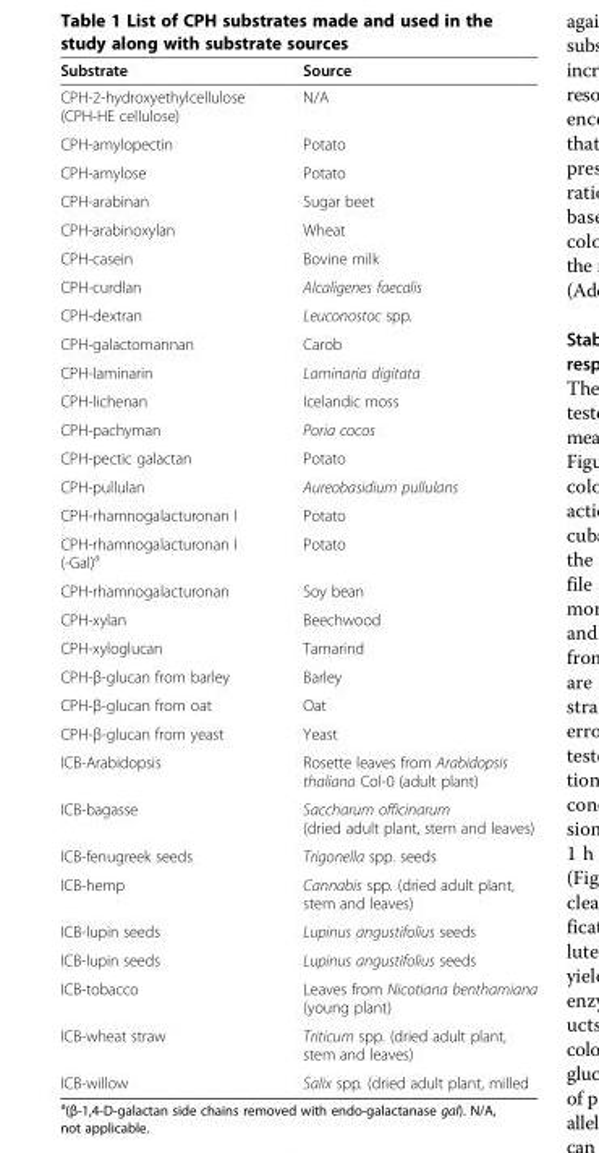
<table><thead><tr><td>Substrate</td><td>Source</td></tr></thead><tbody><tr><td>CPH-2-hydroxyethylcellulose (CPH-HE cellulose)</td><td>N/A</td></tr><tr><td>CPH-amylopectin</td><td>Potato</td></tr><tr><td>CPH-amylose</td><td>Potato</td></tr><tr><td>CPH-arabinan</td><td>Sugar beet</td></tr><tr><td>CPH-arabinoxylan</td><td>Wheat</td></tr><tr><td>CPH-casein</td><td>Bovine milk</td></tr><tr><td>CPH-curdlan</td><td>Alcaligenes faecalis</td></tr><tr><td>CPH-dextran</td><td>Leuconostoc spp.</td></tr><tr><td>CPH-galactomannan</td><td>Carob</td></tr><tr><td>CPH-laminarin</td><td>Laminaria digitata</td></tr><tr><td>CPH-lichenan</td><td>Icelandic moss</td></tr><tr><td>CPH-pachyman</td><td>Poria cocos</td></tr><tr><td>CPH-pectic galactan</td><td>Potato</td></tr><tr><td>CPH-pullulan</td><td>Aureobasidium pullulans</td></tr><tr><td>CPH-rhamnogalacturonan I</td><td>Potato</td></tr><tr><td>CPH-rhamnogalacturonan I (-Gal)<sup>a</sup></td><td>Potato</td></tr><tr><td>CPH-rhamnogalacturonan</td><td>Soy bean</td></tr><tr><td>CPH-xylan</td><td>Beechwood</td></tr><tr><td>CPH-xyloglucan</td><td>Tamarind</td></tr><tr><td>CPH-β-glucan from barley</td><td>Barley</td></tr><tr><td>CPH-β-glucan from oat</td><td>Oat</td></tr><tr><td>CPH-β-glucan from yeast</td><td>Yeast</td></tr><tr><td>ICB-Arabidopsis</td><td>Rosette leaves from Arabidopsis thaliana Col-0 (adult plant)</td></tr><tr><td>ICB-bagasse</td><td>Saccharum officinarum (dried adult plant, stem and leaves)</td></tr><tr><td>ICB-fenugreek seeds</td><td>Trigonella spp. seeds</td></tr><tr><td>ICB-hemp</td><td>Cannabis spp. (dried adult plant, stem and leaves)</td></tr><tr><td>ICB-lupin seeds</td><td>Lupinus angustifolius seeds</td></tr><tr><td>ICB-lupin seeds</td><td>Lupinus angustifolius seeds</td></tr><tr><td>ICB-tobacco</td><td>Leaves from Nicotiana benthamiana (young plant)</td></tr><tr><td>ICB-wheat straw</td><td>Triticum spp. (dried adult plant, stem and leaves)</td></tr><tr><td>ICB-willow</td><td>Salix spp. (dried adult plant, milled</td></tr></tbody></table>